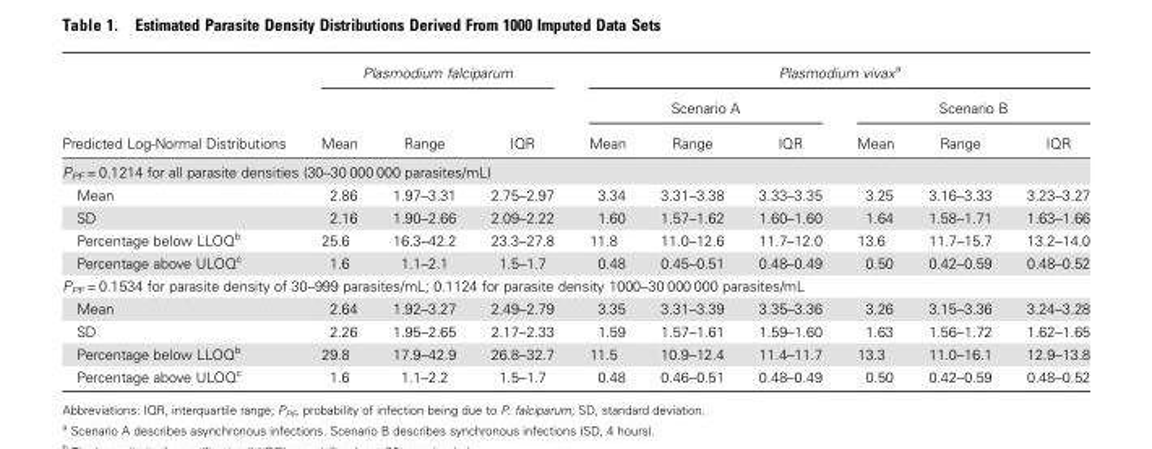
<table><thead><tr><td rowspan="3">Predicted Log-Normal Distributions</td><td colspan="3">Plasmodium falciparum</td><td colspan="6">Plasmodium vivax<sup>a</sup></td></tr><tr><td rowspan="2">Mean</td><td rowspan="2">Range</td><td rowspan="2">IQR</td><td colspan="3">Scenario A</td><td colspan="3">Scenario B</td></tr><tr><td>Mean</td><td>Range</td><td>IQR</td><td>Mean</td><td>Range</td><td>IQR</td></tr></thead><tbody><tr><td colspan="10">P<sub>PF</sub> = 0.1214 for all parasite densities (30–30 000 000 parasites/mL)</td></tr><tr><td>Mean</td><td>2.86</td><td>1.97–3.31</td><td>2.75–2.97</td><td>3.34</td><td>3.31–3.38</td><td>3.33–3.35</td><td>3.25</td><td>3.16–3.33</td><td>3.23–3.27</td></tr><tr><td>SD</td><td>2.16</td><td>1.90–2.66</td><td>2.09–2.22</td><td>1.60</td><td>1.57–1.62</td><td>1.60–1.60</td><td>1.64</td><td>1.58–1.71</td><td>1.63–1.66</td></tr><tr><td>Percentage below LLOQ<sup>b</sup></td><td>25.6</td><td>16.3–42.2</td><td>23.3–27.8</td><td>11.8</td><td>11.0–12.6</td><td>11.7–12.0</td><td>13.6</td><td>11.7–15.7</td><td>13.2–14.0</td></tr><tr><td>Percentage above ULOQ<sup>c</sup></td><td>1.6</td><td>1.1–2.1</td><td>1.5–1.7</td><td>0.48</td><td>0.45–0.51</td><td>0.48–0.49</td><td>0.50</td><td>0.42–0.59</td><td>0.48–0.52</td></tr><tr><td colspan="10">P<sub>PF</sub> = 0.1534 for parasite density of 30–999 parasites/mL; 0.1124 for parasite density 1000–30 000 000 parasites/mL</td></tr><tr><td>Mean</td><td>2.64</td><td>1.92–3.27</td><td>2.49–2.79</td><td>3.35</td><td>3.31–3.39</td><td>3.35–3.36</td><td>3.26</td><td>3.15–3.36</td><td>3.24–3.28</td></tr><tr><td>SD</td><td>2.26</td><td>1.95–2.65</td><td>2.17–2.33</td><td>1.59</td><td>1.57–1.61</td><td>1.59–1.60</td><td>1.63</td><td>1.56–1.72</td><td>1.62–1.65</td></tr><tr><td>Percentage below LLOQ<sup>b</sup></td><td>29.8</td><td>17.9–42.9</td><td>26.8–32.7</td><td>11.5</td><td>10.9–12.4</td><td>11.4–11.7</td><td>13.3</td><td>11.0–16.1</td><td>12.9–13.8</td></tr><tr><td>Percentage above ULOQ<sup>c</sup></td><td>1.6</td><td>1.1–2.2</td><td>1.5–1.7</td><td>0.48</td><td>0.46–0.51</td><td>0.48–0.49</td><td>0.50</td><td>0.42–0.59</td><td>0.48–0.52</td></tr></tbody></table>